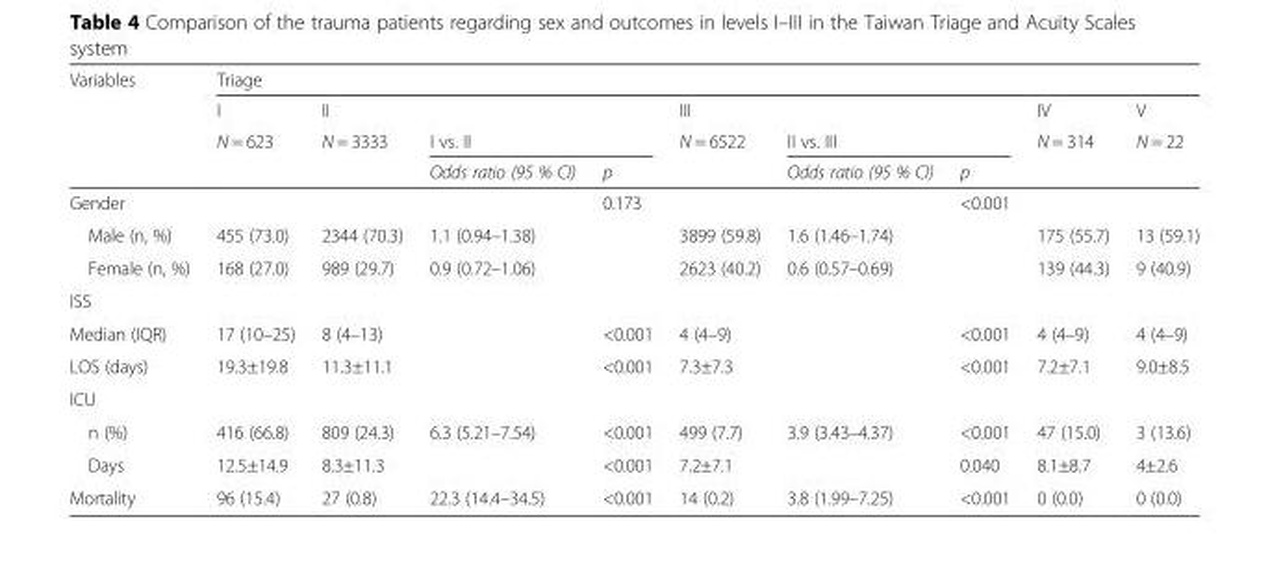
<table><thead><tr><td rowspan="4">Variables</td><td colspan="9">Triage</td></tr><tr><td rowspan="3">I N = 623</td><td rowspan="3">II N = 3333</td><td></td><td></td><td rowspan="3">III N = 6522</td><td></td><td></td><td rowspan="3">IV N = 314</td><td rowspan="3">V N = 22</td></tr><tr><td colspan="2">I vs. II</td><td colspan="2">II vs. III</td></tr><tr><td>Odds ratio (95 % CI)</td><td>p</td><td>Odds ratio (95 % CI)</td><td>p</td></tr></thead><tbody><tr><td>Gender</td><td></td><td></td><td></td><td>0.173</td><td></td><td></td><td>&lt;0.001</td><td></td><td></td></tr><tr><td>Male (n, %)</td><td>455 (73.0)</td><td>2344 (70.3)</td><td>1.1 (0.94–1.38)</td><td></td><td>3899 (59.8)</td><td>1.6 (1.46–1.74)</td><td></td><td>175 (55.7)</td><td>13 (59.1)</td></tr><tr><td>Female (n, %)</td><td>168 (27.0)</td><td>989 (29.7)</td><td>0.9 (0.72–1.06)</td><td></td><td>2623 (40.2)</td><td>0.6 (0.57–0.69)</td><td></td><td>139 (44.3)</td><td>9 (40.9)</td></tr><tr><td colspan="10">ISS</td></tr><tr><td>Median (IQR)</td><td>17 (10–25)</td><td>8 (4–13)</td><td></td><td>&lt;0.001</td><td>4 (4–9)</td><td></td><td>&lt;0.001</td><td>4 (4–9)</td><td>4 (4–9)</td></tr><tr><td>LOS (days)</td><td>19.3±19.8</td><td>11.3±11.1</td><td></td><td>&lt;0.001</td><td>7.3±7.3</td><td></td><td>&lt;0.001</td><td>7.2±7.1</td><td>9.0±8.5</td></tr><tr><td colspan="10">ICU</td></tr><tr><td>n (%)</td><td>416 (66.8)</td><td>809 (24.3)</td><td>6.3 (5.21–7.54)</td><td>&lt;0.001</td><td>499 (7.7)</td><td>3.9 (3.43–4.37)</td><td>&lt;0.001</td><td>47 (15.0)</td><td>3 (13.6)</td></tr><tr><td>Days</td><td>12.5±14.9</td><td>8.3±11.3</td><td></td><td>&lt;0.001</td><td>7.2±7.1</td><td></td><td>0.040</td><td>8.1±8.7</td><td>4±2.6</td></tr><tr><td>Mortality</td><td>96 (15.4)</td><td>27 (0.8)</td><td>22.3 (14.4–34.5)</td><td>&lt;0.001</td><td>14 (0.2)</td><td>3.8 (1.99–7.25)</td><td>&lt;0.001</td><td>0 (0.0)</td><td>0 (0.0)</td></tr></tbody></table>